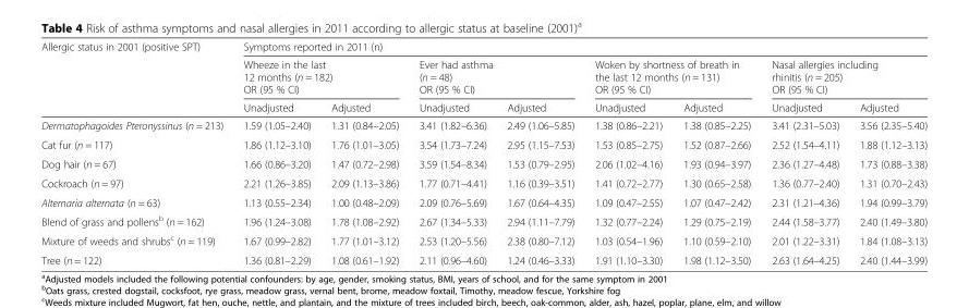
<table><thead><tr><td rowspan="3">Allergic status in 2001 (positive SPT)</td><td colspan="8">Symptoms reported in 2011 (n)</td></tr><tr><td colspan="2">Wheeze in the last 12 months (n = 182) OR (95 % CI)</td><td colspan="2">Ever had asthma (n = 48) OR (95 % CI)</td><td colspan="2">Woken by shortness of breath in the last 12 months (n = 131) OR (95 % CI)</td><td colspan="2">Nasal allergies including rhinitis (n = 205) OR (95 % CI)</td></tr><tr><td>Unadjusted</td><td>Adjusted</td><td>Unadjusted</td><td>Adjusted</td><td>Unadjusted</td><td>Adjusted</td><td>Unadjusted</td><td>Adjusted</td></tr></thead><tbody><tr><td>Dermatophagoides Pteronyssinus (n = 213)</td><td>1.59 (1.05–2.40)</td><td>1.31 (0.84–2.05)</td><td>3.41 (1.82–6.36)</td><td>2.49 (1.06–5.85)</td><td>1.38 (0.86–2.21)</td><td>1.38 (0.85–2.25)</td><td>3.41 (2.31–5.03)</td><td>3.56 (2.35–5.40)</td></tr><tr><td>Cat fur (n = 117)</td><td>1.86 (1.12–3.10)</td><td>1.76 (1.01–3.05)</td><td>3.54 (1.73–7.24)</td><td>2.95 (1.15–7.53)</td><td>1.53 (0.85–2.75)</td><td>1.52 (0.87–2.66)</td><td>2.52 (1.54–4.11)</td><td>1.88 (1.12–3.13)</td></tr><tr><td>Dog hair (n = 67)</td><td>1.66 (0.86–3.20)</td><td>1.47 (0.72–2.98)</td><td>3.59 (1.54–8.34)</td><td>1.53 (0.79–2.95)</td><td>2.06 (1.02–4.16)</td><td>1.93 (0.94–3.97)</td><td>2.36 (1.27–4.48)</td><td>1.73 (0.88–3.38)</td></tr><tr><td>Cockroach (n = 97)</td><td>2.21 (1.26–3.85)</td><td>2.09 (1.13–3.86)</td><td>1.77 (0.71–4.41)</td><td>1.16 (0.39–3.51)</td><td>1.41 (0.72–2.77)</td><td>1.30 (0.65–2.58)</td><td>1.36 (0.77–2.40)</td><td>1.31 (0.70–2.43)</td></tr><tr><td>Alternaria alternata (n = 63)</td><td>1.13 (0.55–2.34)</td><td>1.00 (0.48–2.09)</td><td>2.09 (0.76–5.69)</td><td>1.67 (0.64–4.35)</td><td>1.09 (0.47–2.55)</td><td>1.07 (0.47–2.42)</td><td>2.31 (1.21–4.36)</td><td>1.94 (0.99–3.79)</td></tr><tr><td>Blend of grass and pollens<sup>b</sup> (n = 162)</td><td>1.96 (1.24–3.08)</td><td>1.78 (1.08–2.92)</td><td>2.67 (1.34–5.33)</td><td>2.94 (1.11–7.79)</td><td>1.32 (0.77–2.24)</td><td>1.29 (0.75–2.19)</td><td>2.44 (1.58–3.77)</td><td>2.40 (1.49–3.80)</td></tr><tr><td>Mixture of weeds and shrubs<sup>c</sup> (n = 119)</td><td>1.67 (0.99–2.82)</td><td>1.77 (1.01–3.12)</td><td>2.53 (1.20–5.56)</td><td>2.38 (0.80–7.12)</td><td>1.03 (0.54–1.96)</td><td>1.10 (0.59–2.10)</td><td>2.01 (1.22–3.31)</td><td>1.84 (1.08–3.13)</td></tr><tr><td>Tree (n = 122)</td><td>1.36 (0.81–2.29)</td><td>1.08 (0.61–1.92)</td><td>2.11 (0.96–4.60)</td><td>1.24 (0.46–3.33)</td><td>1.91 (1.10–3.30)</td><td>1.98 (1.12–3.50)</td><td>2.63 (1.64–4.25)</td><td>2.40 (1.44–3.99)</td></tr></tbody></table>